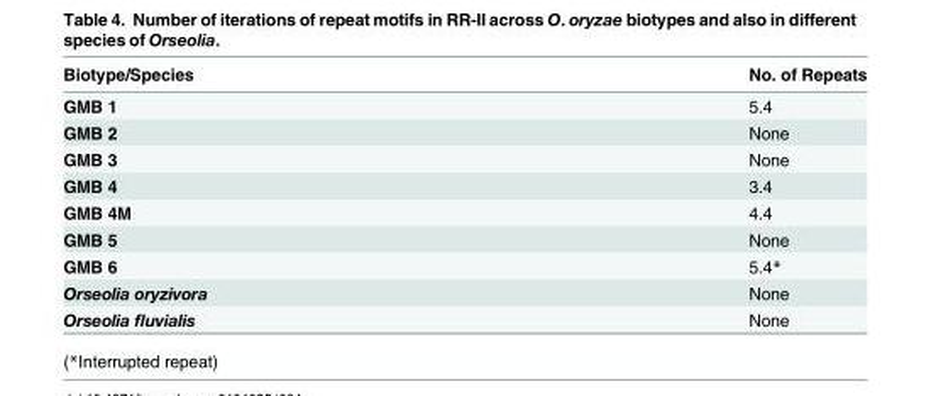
<table><thead><tr><td>Biotype/Species</td><td>No. of Repeats</td></tr></thead><tbody><tr><td>GMB 1</td><td>5.4</td></tr><tr><td>GMB 2</td><td>None</td></tr><tr><td>GMB 3</td><td>None</td></tr><tr><td>GMB 4</td><td>3.4</td></tr><tr><td>GMB 4M</td><td>4.4</td></tr><tr><td>GMB 5</td><td>None</td></tr><tr><td>GMB 6</td><td>5.4*</td></tr><tr><td>Orseolia oryzivora</td><td>None</td></tr><tr><td>Orseolia fluvialis</td><td>None</td></tr></tbody></table>